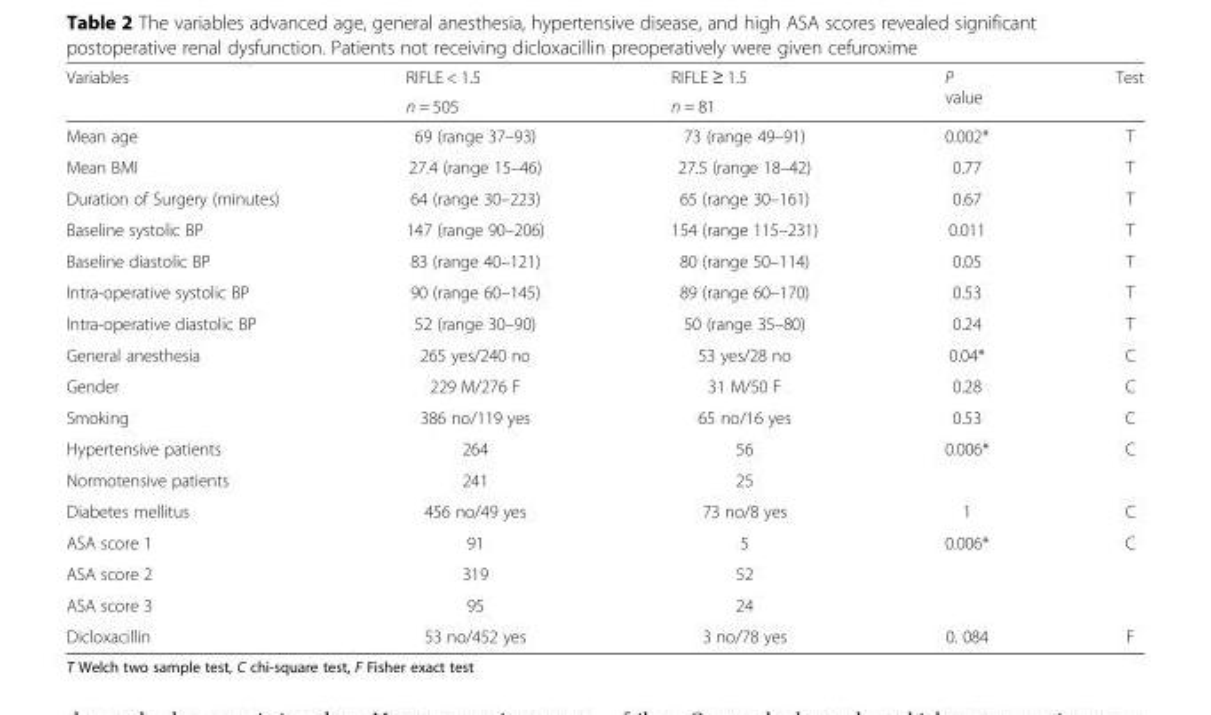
<table><thead><tr><td rowspan="2">Variables</td><td rowspan="2">RIFLE &lt; 1.5 n = 505</td><td rowspan="2">RIFLE ≥ 1.5 n = 81</td><td rowspan="2">P value</td><td rowspan="2">Test</td></tr><tr></tr></thead><tbody><tr><td>Mean age</td><td>69 (range 37–93)</td><td>73 (range 49–91)</td><td>0.002*</td><td>T</td></tr><tr><td>Mean BMI</td><td>27.4 (range 15–46)</td><td>27.5 (range 18–42)</td><td>0.77</td><td>T</td></tr><tr><td>Duration of Surgery (minutes)</td><td>64 (range 30–223)</td><td>65 (range 30–161)</td><td>0.67</td><td>T</td></tr><tr><td>Baseline systolic BP</td><td>147 (range 90–206)</td><td>154 (range 115–231)</td><td>0.011</td><td>T</td></tr><tr><td>Baseline diastolic BP</td><td>83 (range 40–121)</td><td>80 (range 50–114)</td><td>0.05</td><td>T</td></tr><tr><td>Intra-operative systolic BP</td><td>90 (range 60–145)</td><td>89 (range 60–170)</td><td>0.53</td><td>T</td></tr><tr><td>Intra-operative diastolic BP</td><td>52 (range 30–90)</td><td>50 (range 35–80)</td><td>0.24</td><td>T</td></tr><tr><td>General anesthesia</td><td>265 yes/240 no</td><td>53 yes/28 no</td><td>0.04*</td><td>C</td></tr><tr><td>Gender</td><td>229 M/276 F</td><td>31 M/50 F</td><td>0.28</td><td>C</td></tr><tr><td>Smoking</td><td>386 no/119 yes</td><td>65 no/16 yes</td><td>0.53</td><td>C</td></tr><tr><td>Hypertensive patients</td><td>264</td><td>56</td><td>0.006*</td><td>C</td></tr><tr><td>Normotensive patients</td><td>241</td><td>25</td><td></td><td></td></tr><tr><td>Diabetes mellitus</td><td>456 no/49 yes</td><td>73 no/8 yes</td><td>1</td><td>C</td></tr><tr><td>ASA score 1</td><td>91</td><td>5</td><td rowspan="3">0.006*</td><td rowspan="3">C</td></tr><tr><td>ASA score 2</td><td>319</td><td>52</td></tr><tr><td>ASA score 3</td><td>95</td><td>24</td></tr><tr><td>Dicloxacillin</td><td>53 no/452 yes</td><td>3 no/78 yes</td><td>0. 084</td><td>F</td></tr></tbody></table>